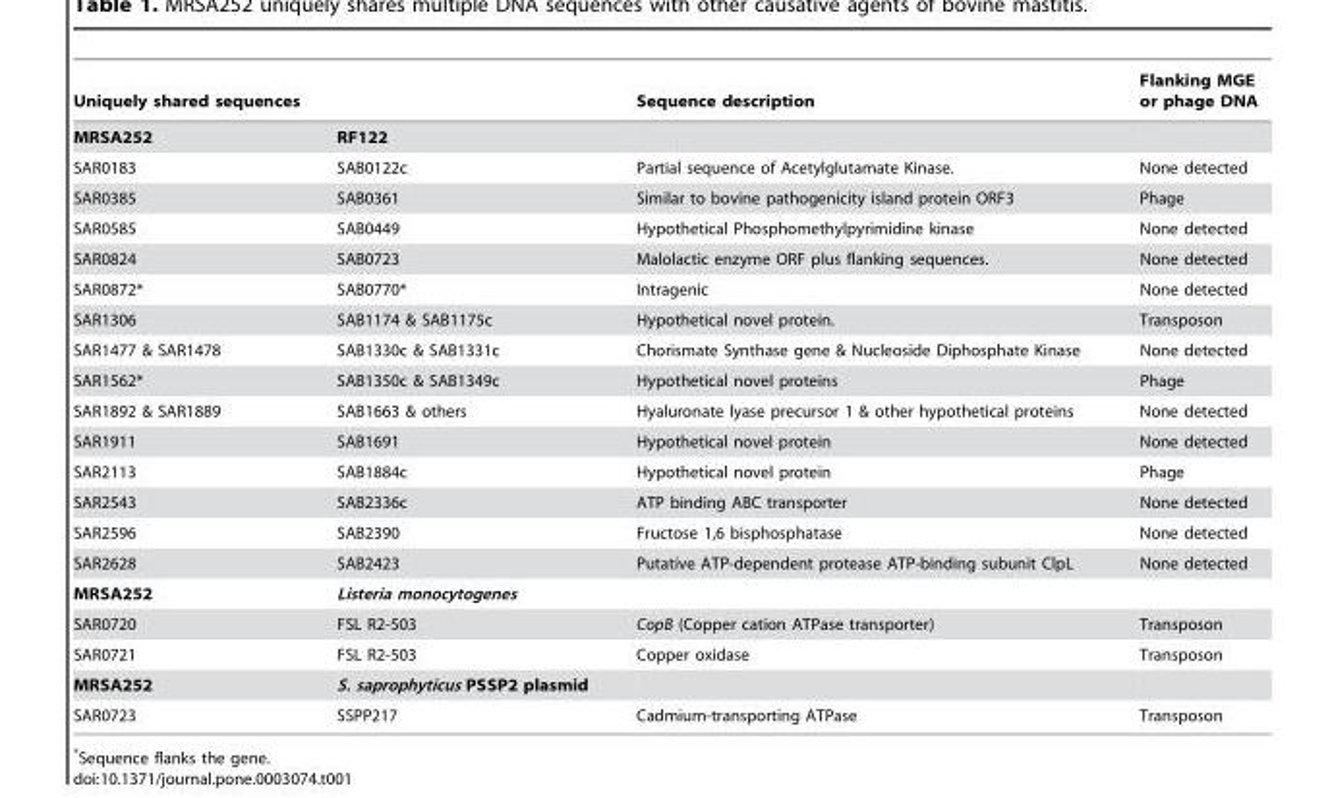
<table><thead><tr><td colspan="2">Uniquely shared sequences</td><td rowspan="2">Sequence description</td><td rowspan="2">Flanking MGE or phage DNA</td></tr><tr><td>MRSA252</td><td>RF122</td></tr></thead><tbody><tr><td>SAR0183</td><td>SAB0122c</td><td>Partial sequence of Acetylglutamate Kinase.</td><td>None detected</td></tr><tr><td>SAR0385</td><td>SAB0361</td><td>Similar to bovine pathogenicity island protein ORF3</td><td>Phage</td></tr><tr><td>SAR0585</td><td>SAB0449</td><td>Hypothetical Phosphomethylpyrimidine kinase</td><td>None detected</td></tr><tr><td>SAR0824</td><td>SAB0723</td><td>Malolactic enzyme ORF plus flanking sequences.</td><td>None detected</td></tr><tr><td>SAR0872*</td><td>SAB0770*</td><td>Intragenic</td><td>None detected</td></tr><tr><td>SAR1306</td><td>SAB1174 &amp; SAB1175c</td><td>Hypothetical novel protein.</td><td>Transposon</td></tr><tr><td>SAR1477 &amp; SAR1478</td><td>SAB1330c &amp; SAB1331c</td><td>Chorismate Synthase gene &amp; Nucleoside Diphosphate Kinase</td><td>None detected</td></tr><tr><td>SAR1562*</td><td>SAB1350c &amp; SAB1349c</td><td>Hypothetical novel proteins</td><td>Phage</td></tr><tr><td>SAR1892 &amp; SAR1889</td><td>SAB1663 &amp; others</td><td>Hyaluronate lyase precursor 1 &amp; other hypothetical proteins</td><td>None detected</td></tr><tr><td>SAR1911</td><td>SAB1691</td><td>Hypothetical novel protein</td><td>None detected</td></tr><tr><td>SAR2113</td><td>SAB1884c</td><td>Hypothetical novel protein</td><td>Phage</td></tr><tr><td>SAR2543</td><td>SAB2336c</td><td>ATP binding ABC transporter</td><td>None detected</td></tr><tr><td>SAR2596</td><td>SAB2390</td><td>Fructose 1,6 bisphosphatase</td><td>None detected</td></tr><tr><td>SAR2628</td><td>SAB2423</td><td>Putative ATP-dependent protease ATP-binding subunit ClpL</td><td>None detected</td></tr><tr><td>MRSA252</td><td>Listeria monocytogenes</td><td></td><td></td></tr><tr><td>SAR0720</td><td>FSL R2-503</td><td>CopB (Copper cation ATPase transporter)</td><td>Transposon</td></tr><tr><td>SAR0721</td><td>FSL R2-503</td><td>Copper oxidase</td><td>Transposon</td></tr><tr><td>MRSA252</td><td>S. saprophyticus PSSP2 plasmid</td><td></td><td></td></tr><tr><td>SAR0723</td><td>SSPP217</td><td>Cadmium-transporting ATPase</td><td>Transposon</td></tr></tbody></table>